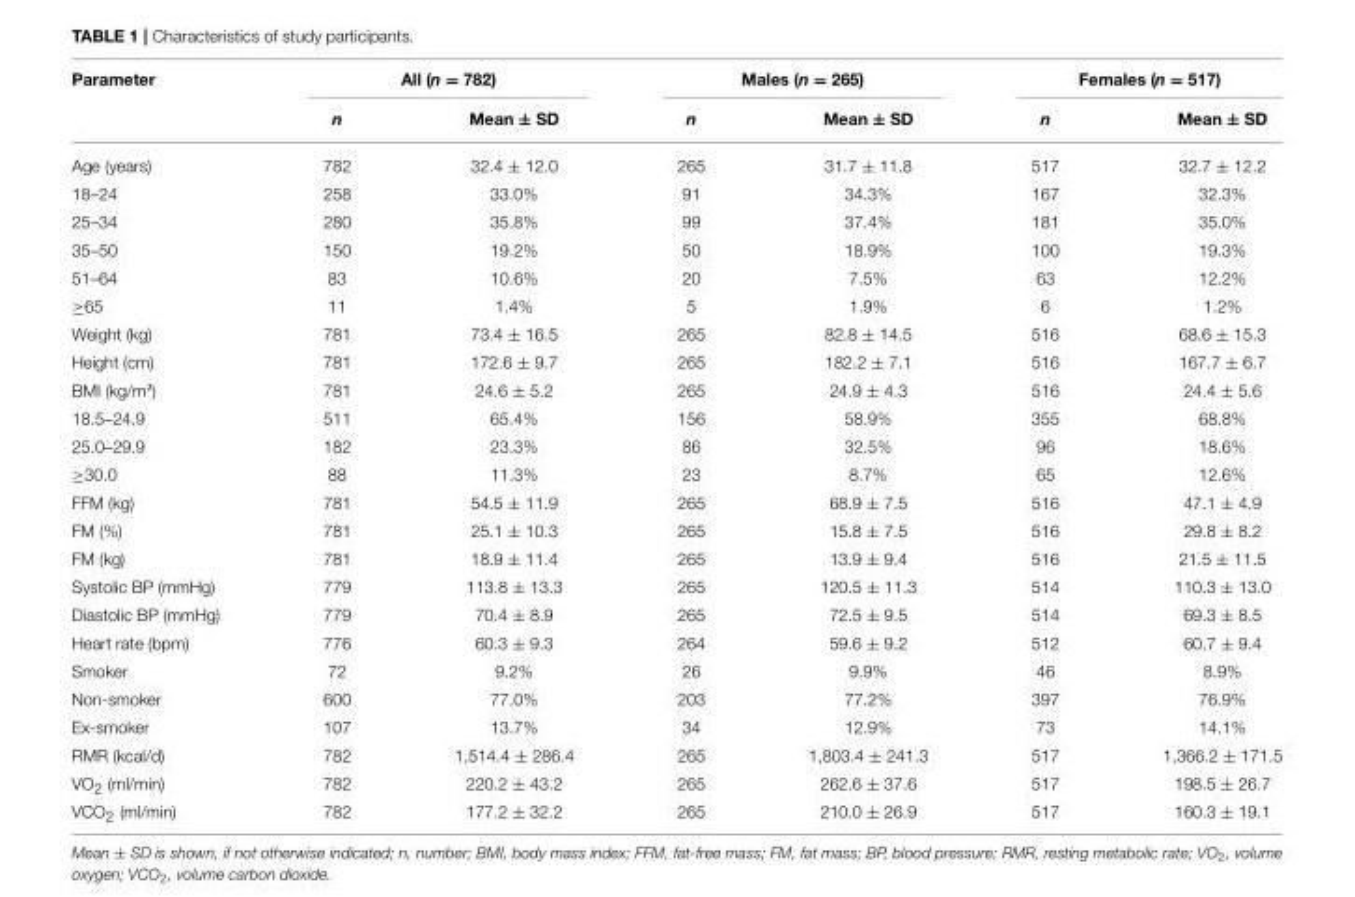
<table><thead><tr><td rowspan="2">Parameter</td><td colspan="2">All (n = 782)</td><td colspan="2">Males (n = 265)</td><td colspan="2">Females (n = 517)</td></tr><tr><td>n</td><td>Mean ± SD</td><td>n</td><td>Mean ± SD</td><td>n</td><td>Mean ± SD</td></tr></thead><tbody><tr><td>Age (years)</td><td>782</td><td>32.4 ± 12.0</td><td>265</td><td>31.7 ± 11.8</td><td>517</td><td>32.7 ± 12.2</td></tr><tr><td>18–24</td><td>258</td><td>33.0%</td><td>91</td><td>34.3%</td><td>167</td><td>32.3%</td></tr><tr><td>25–34</td><td>280</td><td>35.8%</td><td>99</td><td>37.4%</td><td>181</td><td>35.0%</td></tr><tr><td>35–50</td><td>150</td><td>19.2%</td><td>50</td><td>18.9%</td><td>100</td><td>19.3%</td></tr><tr><td>51–64</td><td>83</td><td>10.6%</td><td>20</td><td>7.5%</td><td>63</td><td>12.2%</td></tr><tr><td>≥65</td><td>11</td><td>1.4%</td><td>5</td><td>1.9%</td><td>6</td><td>1.2%</td></tr><tr><td>Weight (kg)</td><td>781</td><td>73.4 ± 16.5</td><td>265</td><td>82.8 ± 14.5</td><td>516</td><td>68.6 ± 15.3</td></tr><tr><td>Height (cm)</td><td>781</td><td>172.6 ± 9.7</td><td>265</td><td>182.2 ± 7.1</td><td>516</td><td>167.7 ± 6.7</td></tr><tr><td>BMI (kg/m²)</td><td>781</td><td>24.6 ± 5.2</td><td>265</td><td>24.9 ± 4.3</td><td>516</td><td>24.4 ± 5.6</td></tr><tr><td>18.5–24.9</td><td>511</td><td>65.4%</td><td>156</td><td>58.9%</td><td>355</td><td>68.8%</td></tr><tr><td>25.0–29.9</td><td>182</td><td>23.3%</td><td>86</td><td>32.5%</td><td>96</td><td>18.6%</td></tr><tr><td>≥30.0</td><td>88</td><td>11.3%</td><td>23</td><td>8.7%</td><td>65</td><td>12.6%</td></tr><tr><td>FFM (kg)</td><td>781</td><td>54.5 ± 11.9</td><td>265</td><td>68.9 ± 7.5</td><td>516</td><td>47.1 ± 4.9</td></tr><tr><td>FM (%)</td><td>781</td><td>25.1 ± 10.3</td><td>265</td><td>15.8 ± 7.5</td><td>516</td><td>29.8 ± 8.2</td></tr><tr><td>FM (kg)</td><td>781</td><td>18.9 ± 11.4</td><td>265</td><td>13.9 ± 9.4</td><td>516</td><td>21.5 ± 11.5</td></tr><tr><td>Systolic BP (mmHg)</td><td>779</td><td>113.8 ± 13.3</td><td>265</td><td>120.5 ± 11.3</td><td>514</td><td>110.3 ± 13.0</td></tr><tr><td>Diastolic BP (mmHg)</td><td>779</td><td>70.4 ± 8.9</td><td>265</td><td>72.5 ± 9.5</td><td>514</td><td>69.3 ± 8.5</td></tr><tr><td>Heart rate (bpm)</td><td>776</td><td>60.3 ± 9.3</td><td>264</td><td>59.6 ± 9.2</td><td>512</td><td>60.7 ± 9.4</td></tr><tr><td>Smoker</td><td>72</td><td>9.2%</td><td>26</td><td>9.9%</td><td>46</td><td>8.9%</td></tr><tr><td>Non-smoker</td><td>600</td><td>77.0%</td><td>203</td><td>77.2%</td><td>397</td><td>76.9%</td></tr><tr><td>Ex-smoker</td><td>107</td><td>13.7%</td><td>34</td><td>12.9%</td><td>73</td><td>14.1%</td></tr><tr><td>RMR (kcal/d)</td><td>782</td><td>1,514.4 ± 286.4</td><td>265</td><td>1,803.4 ± 241.3</td><td>517</td><td>1,366.2 ± 171.5</td></tr><tr><td>VO<sub>2</sub> (ml/min)</td><td>782</td><td>220.2 ± 43.2</td><td>265</td><td>262.6 ± 37.6</td><td>517</td><td>198.5 ± 26.7</td></tr><tr><td>VCO<sub>2</sub> (ml/min)</td><td>782</td><td>177.2 ± 32.2</td><td>265</td><td>210.0 ± 26.9</td><td>517</td><td>160.3 ± 19.1</td></tr></tbody></table>